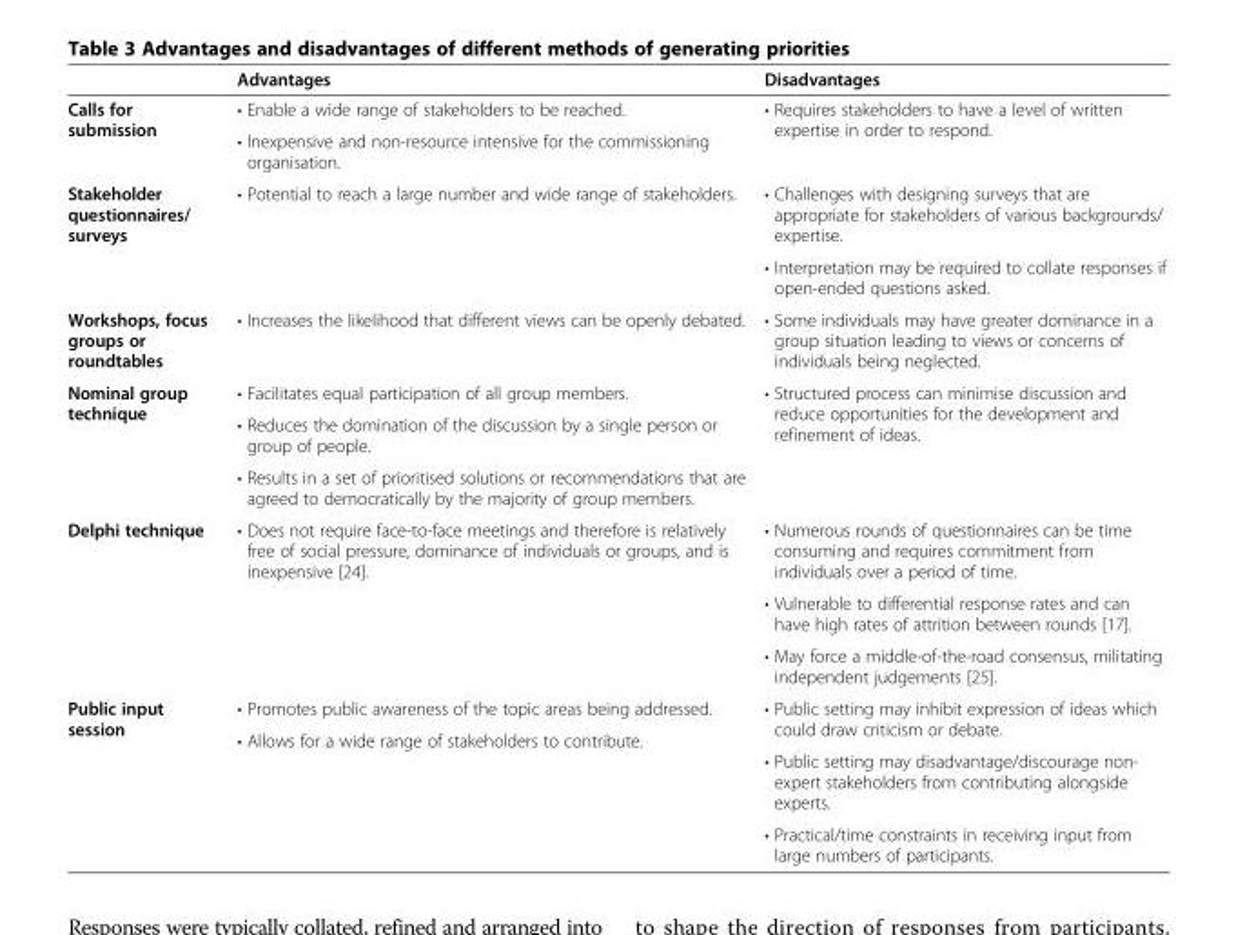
<table><thead><tr><td></td><td>Advantages</td><td>Disadvantages</td></tr></thead><tbody><tr><td rowspan="2">Calls for submission</td><td>• Enable a wide range of stakeholders to be reached.</td><td rowspan="2">• Requires stakeholders to have a level of written expertise in order to respond.</td></tr><tr><td>• Inexpensive and non-resource intensive for the commissioning organisation.</td></tr><tr><td rowspan="2">Stakeholder questionnaires/ surveys</td><td rowspan="2">• Potential to reach a large number and wide range of stakeholders.</td><td>• Challenges with designing surveys that are appropriate for stakeholders of various backgrounds/ expertise.</td></tr><tr><td>• Interpretation may be required to collate responses if open-ended questions asked.</td></tr><tr><td>Workshops, focus groups or roundtables</td><td>• Increases the likelihood that different views can be openly debated.</td><td>• Some individuals may have greater dominance in a group situation leading to views or concerns of individuals being neglected.</td></tr><tr><td rowspan="3">Nominal group technique</td><td>• Facilitates equal participation of all group members.</td><td rowspan="3">• Structured process can minimise discussion and reduce opportunities for the development and refinement of ideas.</td></tr><tr><td>• Reduces the domination of the discussion by a single person or group of people.</td></tr><tr><td>• Results in a set of prioritised solutions or recommendations that are agreed to democratically by the majority of group members.</td></tr><tr><td rowspan="3">Delphi technique</td><td rowspan="3">• Does not require face-to-face meetings and therefore is relatively free of social pressure, dominance of individuals or groups, and is inexpensive [24].</td><td>• Numerous rounds of questionnaires can be time consuming and requires commitment from individuals over a period of time.</td></tr><tr><td>• Vulnerable to differential response rates and can have high rates of attrition between rounds [17].</td></tr><tr><td>• May force a middle-of-the-road consensus, militating independent judgements [25].</td></tr><tr><td rowspan="4">Public input session</td><td>• Promotes public awareness of the topic areas being addressed.</td><td rowspan="2">• Public setting may inhibit expression of ideas which could draw criticism or debate.</td></tr><tr><td rowspan="3">• Allows for a wide range of stakeholders to contribute.</td></tr><tr><td>• Public setting may disadvantage/discourage non- expert stakeholders from contributing alongside experts.</td></tr><tr><td>• Practical/time constraints in receiving input from large numbers of participants.</td></tr></tbody></table>